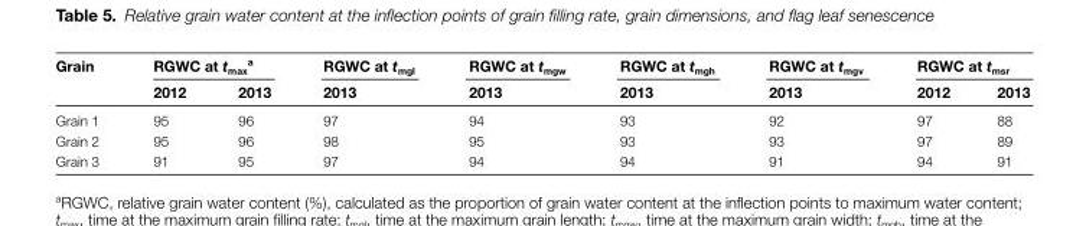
<table><thead><tr><td rowspan="2">Grain</td><td colspan="2">RGWC at t<sub>max</sub> <sup>a</sup></td><td rowspan="2">RGWC at t<sub>mgl</sub> 2013</td><td rowspan="2">RGWC at t<sub>mgw</sub> 2013</td><td rowspan="2">RGWC at t<sub>mgh</sub> 2013</td><td rowspan="2">RGWC at t<sub>mgv</sub> 2013</td><td colspan="2">RGWC at t<sub>msr</sub></td></tr><tr><td>2012</td><td>2013</td><td>2012</td><td>2013</td></tr></thead><tbody><tr><td>Grain 1</td><td>95</td><td>96</td><td>97</td><td>94</td><td>93</td><td>92</td><td>97</td><td>88</td></tr><tr><td>Grain 2</td><td>95</td><td>96</td><td>98</td><td>95</td><td>93</td><td>93</td><td>97</td><td>89</td></tr><tr><td>Grain 3</td><td>91</td><td>95</td><td>97</td><td>94</td><td>94</td><td>91</td><td>94</td><td>91</td></tr></tbody></table>